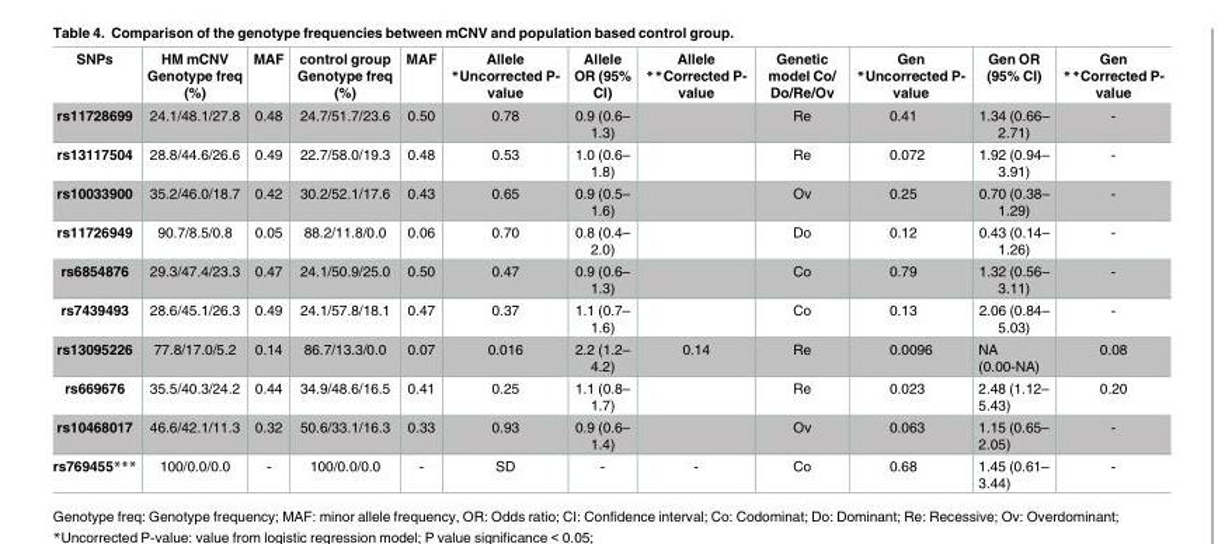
<table><thead><tr><td>SNPs</td><td>HM mCNV Genotype freq (%)</td><td>MAF</td><td>control group Genotype freq (%)</td><td>MAF</td><td>Allele *Uncorrected P- value</td><td>Allele OR (95% CI)</td><td>Allele **Corrected P- value</td><td>Genetic model Co/ Do/Re/Ov</td><td>Gen *Uncorrected P- value</td><td>Gen OR (95% CI)</td><td>Gen **Corrected P- value</td></tr></thead><tbody><tr><td>rs11728699</td><td>24.1/48.1/27.8</td><td>0.48</td><td>24.7/51.7/23.6</td><td>0.50</td><td>0.78</td><td>0.9 (0.6– 1.3)</td><td></td><td>Re</td><td>0.41</td><td>1.34 (0.66– 2.71)</td><td>-</td></tr><tr><td>rs13117504</td><td>28.8/44.6/26.6</td><td>0.49</td><td>22.7/58.0/19.3</td><td>0.48</td><td>0.53</td><td>1.0 (0.6– 1.8)</td><td></td><td>Re</td><td>0.072</td><td>1.92 (0.94– 3.91)</td><td>-</td></tr><tr><td>rs10033900</td><td>35.2/46.0/18.7</td><td>0.42</td><td>30.2/52.1/17.6</td><td>0.43</td><td>0.65</td><td>0.9 (0.5– 1.6)</td><td></td><td>Ov</td><td>0.25</td><td>0.70 (0.38– 1.29)</td><td>-</td></tr><tr><td>rs11726949</td><td>90.7/8.5/0.8</td><td>0.05</td><td>88.2/11.8/0.0</td><td>0.06</td><td>0.70</td><td>0.8 (0.4– 2.0)</td><td></td><td>Do</td><td>0.12</td><td>0.43 (0.14– 1.26)</td><td>-</td></tr><tr><td>rs6854876</td><td>29.3/47.4/23.3</td><td>0.47</td><td>24.1/50.9/25.0</td><td>0.50</td><td>0.47</td><td>0.9 (0.6– 1.3)</td><td></td><td>Co</td><td>0.79</td><td>1.32 (0.56– 3.11)</td><td>-</td></tr><tr><td>rs7439493</td><td>28.6/45.1/26.3</td><td>0.49</td><td>24.1/57.8/18.1</td><td>0.47</td><td>0.37</td><td>1.1 (0.7– 1.6)</td><td></td><td>Co</td><td>0.13</td><td>2.06 (0.84– 5.03)</td><td>-</td></tr><tr><td>rs13095226</td><td>77.8/17.0/5.2</td><td>0.14</td><td>86.7/13.3/0.0</td><td>0.07</td><td>0.016</td><td>2.2 (1.2– 4.2)</td><td>0.14</td><td>Re</td><td>0.0096</td><td>NA (0.00-NA)</td><td>0.08</td></tr><tr><td>rs669676</td><td>35.5/40.3/24.2</td><td>0.44</td><td>34.9/48.6/16.5</td><td>0.41</td><td>0.25</td><td>1.1 (0.8– 1.7)</td><td></td><td>Re</td><td>0.023</td><td>2.48 (1.12– 5.43)</td><td>0.20</td></tr><tr><td>rs10468017</td><td>46.6/42.1/11.3</td><td>0.32</td><td>50.6/33.1/16.3</td><td>0.33</td><td>0.93</td><td>0.9 (0.6– 1.4)</td><td></td><td>Ov</td><td>0.063</td><td>1.15 (0.65– 2.05)</td><td>-</td></tr><tr><td>rs769455***</td><td>100/0.0/0.0</td><td>-</td><td>100/0.0/0.0</td><td>-</td><td>SD</td><td>-</td><td>-</td><td>Co</td><td>0.68</td><td>1.45 (0.61– 3.44)</td><td>-</td></tr></tbody></table>